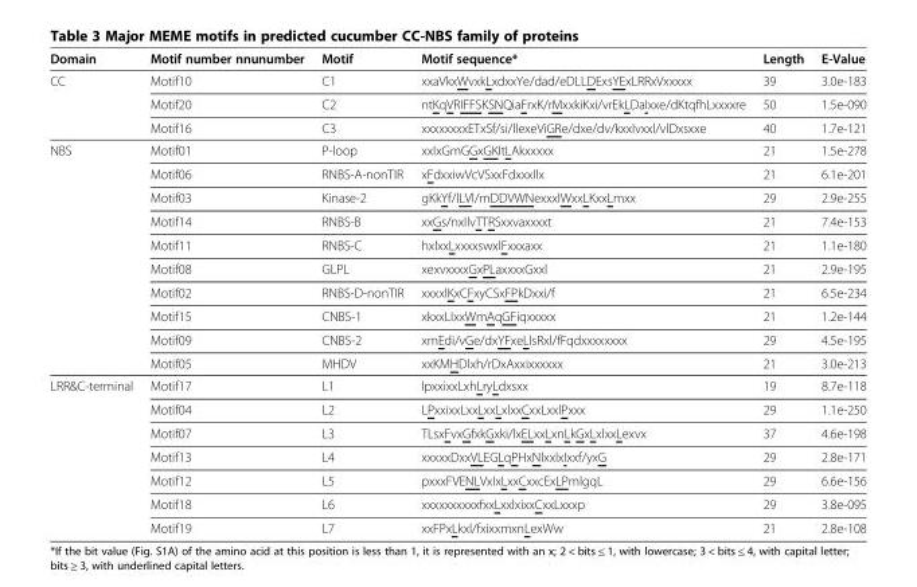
<table><thead><tr><td>Domain</td><td>Motif number nnunumber</td><td>Motif</td><td>Motif sequence*</td><td>Length</td><td>E-Value</td></tr></thead><tbody><tr><td rowspan="3">CC</td><td>Motif10</td><td>C1</td><td>xxaVkxWvxkLxdxxYe/dad/eDLLDExsYExLRRxVxxxxx</td><td>39</td><td>3.0e-183</td></tr><tr><td>Motif20</td><td>C2</td><td>ntKqVRIFFSKSNQiaFrxK/rMxxkiKxi/vrEkLDaIxxe/dKtqfhLxxxxre</td><td>50</td><td>1.5e-090</td></tr><tr><td>Motif16</td><td>C3</td><td>xxxxxxxxETxSf/si/llexeViGRe/dxe/dv/kxxIvxxl/vlDxsxxe</td><td>40</td><td>1.7e-121</td></tr><tr><td rowspan="10">NBS</td><td>Motif01</td><td>P-loop</td><td>xxIxGmGGxGKItLAkxxxxx</td><td>21</td><td>1.5e-278</td></tr><tr><td>Motif06</td><td>RNBS-A-nonTIR</td><td>xFdxxiwVcVSxxFdxxxIlx</td><td>21</td><td>6.1e-201</td></tr><tr><td>Motif03</td><td>Kinase-2</td><td>gKkYf/lLVl/mDDVWNexxxlWxxLKxxLmxx</td><td>29</td><td>2.9e-255</td></tr><tr><td>Motif14</td><td>RNBS-B</td><td>xxGs/nxIlvTTRSxxvaxxxxt</td><td>21</td><td>7.4e-153</td></tr><tr><td>Motif11</td><td>RNBS-C</td><td>hxlxxLxxxxswxlFxxxaxx</td><td>21</td><td>1.1e-180</td></tr><tr><td>Motif08</td><td>GLPL</td><td>xexvxxxxGxPLaxxxxGxxl</td><td>21</td><td>2.9e-195</td></tr><tr><td>Motif02</td><td>RNBS-D-nonTIR</td><td>xxxxlKxCFxyCSxFPkDxxi/f</td><td>21</td><td>6.5e-234</td></tr><tr><td>Motif15</td><td>CNBS-1</td><td>xkxxLIxxWmAqGFiqxxxxx</td><td>21</td><td>1.2e-144</td></tr><tr><td>Motif09</td><td>CNBS-2</td><td>xmEdi/vGe/dxYFxeLlsRxl/fFqdxxxxxxxx</td><td>29</td><td>4.5e-195</td></tr><tr><td>Motif05</td><td>MHDV</td><td>xxKMHDlxh/rDxAxxixxxxxx</td><td>21</td><td>3.0e-213</td></tr><tr><td rowspan="7">LRR&amp;C-terminal</td><td>Motif17</td><td>L1</td><td>lpxxixxLxhLryLdxsxx</td><td>19</td><td>8.7e-118</td></tr><tr><td>Motif04</td><td>L2</td><td>LPxxixxLxxLxxLxlxxCxxLxxlPxxx</td><td>29</td><td>1.1e-250</td></tr><tr><td>Motif07</td><td>L3</td><td>TLsxFvxGfxkGxki/lxELxxLxnLkGxLxlxxLexvx</td><td>37</td><td>4.6e-198</td></tr><tr><td>Motif13</td><td>L4</td><td>xxxxxDxxVLEGLqPHxNlxxlxIxxf/yxG</td><td>29</td><td>2.8e-171</td></tr><tr><td>Motif12</td><td>L5</td><td>pxxxFVENLVxIxLxxCxxcExLPmlgqL</td><td>29</td><td>6.6e-156</td></tr><tr><td>Motif18</td><td>L6</td><td>xxxxxxxxxxfxxLxxlxixxCxxLxxxp</td><td>29</td><td>3.8e-095</td></tr><tr><td>Motif19</td><td>L7</td><td>xxFPxLkxl/fxixxmxnLexWw</td><td>21</td><td>2.8e-108</td></tr></tbody></table>